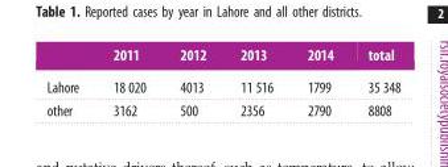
<table><thead><tr><td></td><td>2011</td><td>2012</td><td>2013</td><td>2014</td><td>total</td></tr></thead><tbody><tr><td>Lahore</td><td>18 020</td><td>4013</td><td>11 516</td><td>1799</td><td>35 348</td></tr><tr><td>other</td><td>3162</td><td>500</td><td>2356</td><td>2790</td><td>8808</td></tr></tbody></table>